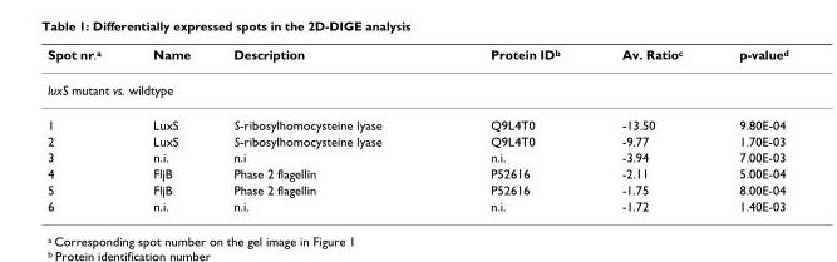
<table><thead><tr><td>Spot nr.<sup>a</sup></td><td>Name</td><td>Description</td><td>Protein ID<sup>b</sup></td><td>Av. Ratio<sup>c</sup></td><td>p-value<sup>d</sup></td></tr></thead><tbody><tr><td colspan="6">luxS mutant vs. wildtype</td></tr><tr><td>1</td><td>LuxS</td><td>S-ribosylhomocysteine lyase</td><td>Q9L4T0</td><td>-13.50</td><td>9.80E-04</td></tr><tr><td>2</td><td>LuxS</td><td>S-ribosylhomocysteine lyase</td><td>Q9L4T0</td><td>-9.77</td><td>1.70E-03</td></tr><tr><td>3</td><td>n.i.</td><td>n.i</td><td>n.i.</td><td>-3.94</td><td>7.00E-03</td></tr><tr><td>4</td><td>FljB</td><td>Phase 2 flagellin</td><td>P52616</td><td>-2.11</td><td>5.00E-04</td></tr><tr><td>5</td><td>FljB</td><td>Phase 2 flagellin</td><td>P52616</td><td>-1.75</td><td>8.00E-04</td></tr><tr><td>6</td><td>n.i.</td><td>n.i.</td><td>n.i.</td><td>-1.72</td><td>1.40E-03</td></tr></tbody></table>